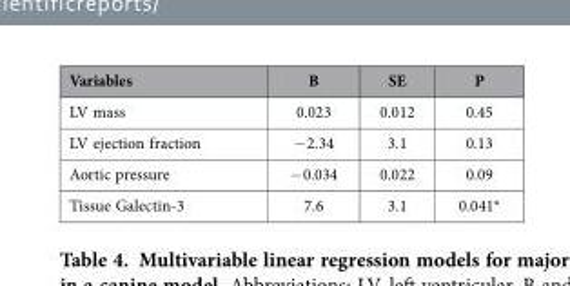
<table><thead><tr><td>Variables</td><td>B</td><td>SE</td><td>P</td></tr></thead><tbody><tr><td>LV mass</td><td>0.023</td><td>0.012</td><td>0.45</td></tr><tr><td>LV ejection fraction</td><td>− 2.34</td><td>3.1</td><td>0.13</td></tr><tr><td>Aortic pressure</td><td>− 0.034</td><td>0.022</td><td>0.09</td></tr><tr><td>Tissue Galectin-3</td><td>7.6</td><td>3.1</td><td>0.041*</td></tr></tbody></table>